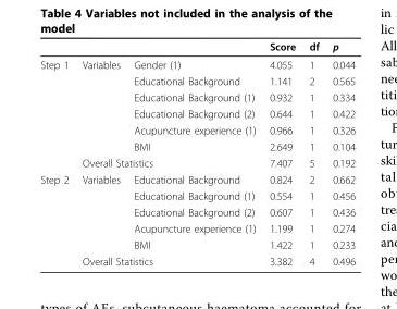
<table><thead><tr><td></td><td></td><td></td><td>Score</td><td>df</td><td>p</td></tr></thead><tbody><tr><td rowspan="7">Step 1</td><td>Variables</td><td>Gender (1)</td><td>4.055</td><td>1</td><td>0.044</td></tr><tr><td></td><td>Educational Background</td><td>1.141</td><td>2</td><td>0.565</td></tr><tr><td></td><td>Educational Background (1)</td><td>0.932</td><td>1</td><td>0.334</td></tr><tr><td></td><td>Educational Background (2)</td><td>0.644</td><td>1</td><td>0.422</td></tr><tr><td></td><td>Acupuncture experience (1)</td><td>0.966</td><td>1</td><td>0.326</td></tr><tr><td></td><td>BMI</td><td>2.649</td><td>1</td><td>0.104</td></tr><tr><td colspan="2">Overall Statistics</td><td>7.407</td><td>5</td><td>0.192</td></tr><tr><td rowspan="6">Step 2</td><td>Variables</td><td>Educational Background</td><td>0.824</td><td>2</td><td>0.662</td></tr><tr><td></td><td>Educational Background (1)</td><td>0.554</td><td>1</td><td>0.456</td></tr><tr><td></td><td>Educational Background (2)</td><td>0.607</td><td>1</td><td>0.436</td></tr><tr><td></td><td>Acupuncture experience (1)</td><td>1.199</td><td>1</td><td>0.274</td></tr><tr><td></td><td>BMI</td><td>1.422</td><td>1</td><td>0.233</td></tr><tr><td colspan="2">Overall Statistics</td><td>3.382</td><td>4</td><td>0.496</td></tr></tbody></table>